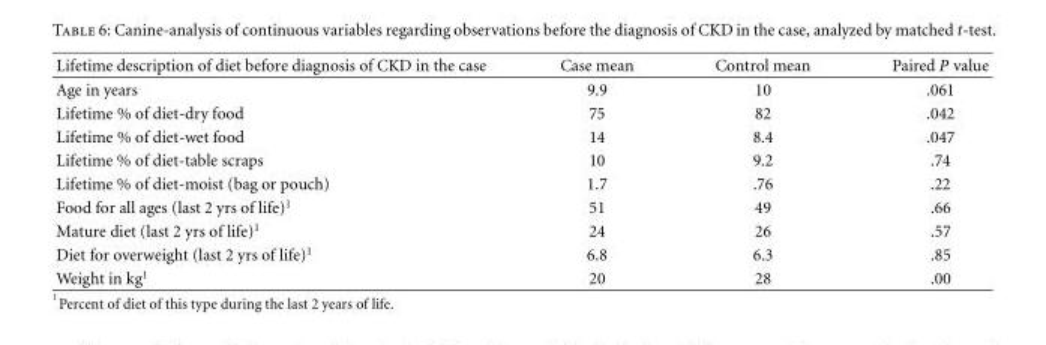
<table><thead><tr><td>Lifetime description of diet before diagnosis of CKD in the case</td><td>Case mean</td><td>Control mean</td><td>Paired P value</td></tr></thead><tbody><tr><td>Age in years</td><td>9.9</td><td>10</td><td>.061</td></tr><tr><td>Lifetime % of diet-dry food</td><td>75</td><td>82</td><td>.042</td></tr><tr><td>Lifetime % of diet-wet food</td><td>14</td><td>8.4</td><td>.047</td></tr><tr><td>Lifetime % of diet-table scraps</td><td>10</td><td>9.2</td><td>.74</td></tr><tr><td>Lifetime % of diet-moist (bag or pouch)</td><td>1.7</td><td>.76</td><td>.22</td></tr><tr><td>Food for all ages (last 2 yrs of life)<sup>1</sup></td><td>51</td><td>49</td><td>.66</td></tr><tr><td>Mature diet (last 2 yrs of life)<sup>1</sup></td><td>24</td><td>26</td><td>.57</td></tr><tr><td>Diet for overweight (last 2 yrs of life)<sup>1</sup></td><td>6.8</td><td>6.3</td><td>.85</td></tr><tr><td>Weight in kg<sup>1</sup></td><td>20</td><td>28</td><td>.00</td></tr></tbody></table>